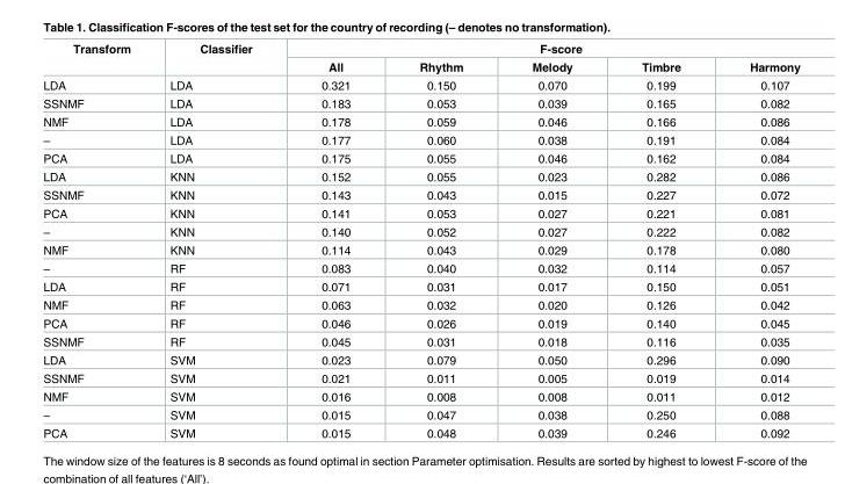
<table><thead><tr><td rowspan="2">Transform</td><td rowspan="2">Classifier</td><td colspan="5">F-score</td></tr><tr><td>All</td><td>Rhythm</td><td>Melody</td><td>Timbre</td><td>Harmony</td></tr></thead><tbody><tr><td>LDA</td><td>LDA</td><td>0.321</td><td>0.150</td><td>0.070</td><td>0.199</td><td>0.107</td></tr><tr><td>SSNMF</td><td>LDA</td><td>0.183</td><td>0.053</td><td>0.039</td><td>0.165</td><td>0.082</td></tr><tr><td>NMF</td><td>LDA</td><td>0.178</td><td>0.059</td><td>0.046</td><td>0.166</td><td>0.086</td></tr><tr><td>–</td><td>LDA</td><td>0.177</td><td>0.060</td><td>0.038</td><td>0.191</td><td>0.084</td></tr><tr><td>PCA</td><td>LDA</td><td>0.175</td><td>0.055</td><td>0.046</td><td>0.162</td><td>0.084</td></tr><tr><td>LDA</td><td>KNN</td><td>0.152</td><td>0.055</td><td>0.023</td><td>0.282</td><td>0.086</td></tr><tr><td>SSNMF</td><td>KNN</td><td>0.143</td><td>0.043</td><td>0.015</td><td>0.227</td><td>0.072</td></tr><tr><td>PCA</td><td>KNN</td><td>0.141</td><td>0.053</td><td>0.027</td><td>0.221</td><td>0.081</td></tr><tr><td>–</td><td>KNN</td><td>0.140</td><td>0.052</td><td>0.027</td><td>0.222</td><td>0.082</td></tr><tr><td>NMF</td><td>KNN</td><td>0.114</td><td>0.043</td><td>0.029</td><td>0.178</td><td>0.080</td></tr><tr><td>–</td><td>RF</td><td>0.083</td><td>0.040</td><td>0.032</td><td>0.114</td><td>0.057</td></tr><tr><td>LDA</td><td>RF</td><td>0.071</td><td>0.031</td><td>0.017</td><td>0.150</td><td>0.051</td></tr><tr><td>NMF</td><td>RF</td><td>0.063</td><td>0.032</td><td>0.020</td><td>0.126</td><td>0.042</td></tr><tr><td>PCA</td><td>RF</td><td>0.046</td><td>0.026</td><td>0.019</td><td>0.140</td><td>0.045</td></tr><tr><td>SSNMF</td><td>RF</td><td>0.045</td><td>0.031</td><td>0.018</td><td>0.116</td><td>0.035</td></tr><tr><td>LDA</td><td>SVM</td><td>0.023</td><td>0.079</td><td>0.050</td><td>0.296</td><td>0.090</td></tr><tr><td>SSNMF</td><td>SVM</td><td>0.021</td><td>0.011</td><td>0.005</td><td>0.019</td><td>0.014</td></tr><tr><td>NMF</td><td>SVM</td><td>0.016</td><td>0.008</td><td>0.008</td><td>0.011</td><td>0.012</td></tr><tr><td>–</td><td>SVM</td><td>0.015</td><td>0.047</td><td>0.038</td><td>0.250</td><td>0.088</td></tr><tr><td>PCA</td><td>SVM</td><td>0.015</td><td>0.048</td><td>0.039</td><td>0.246</td><td>0.092</td></tr></tbody></table>